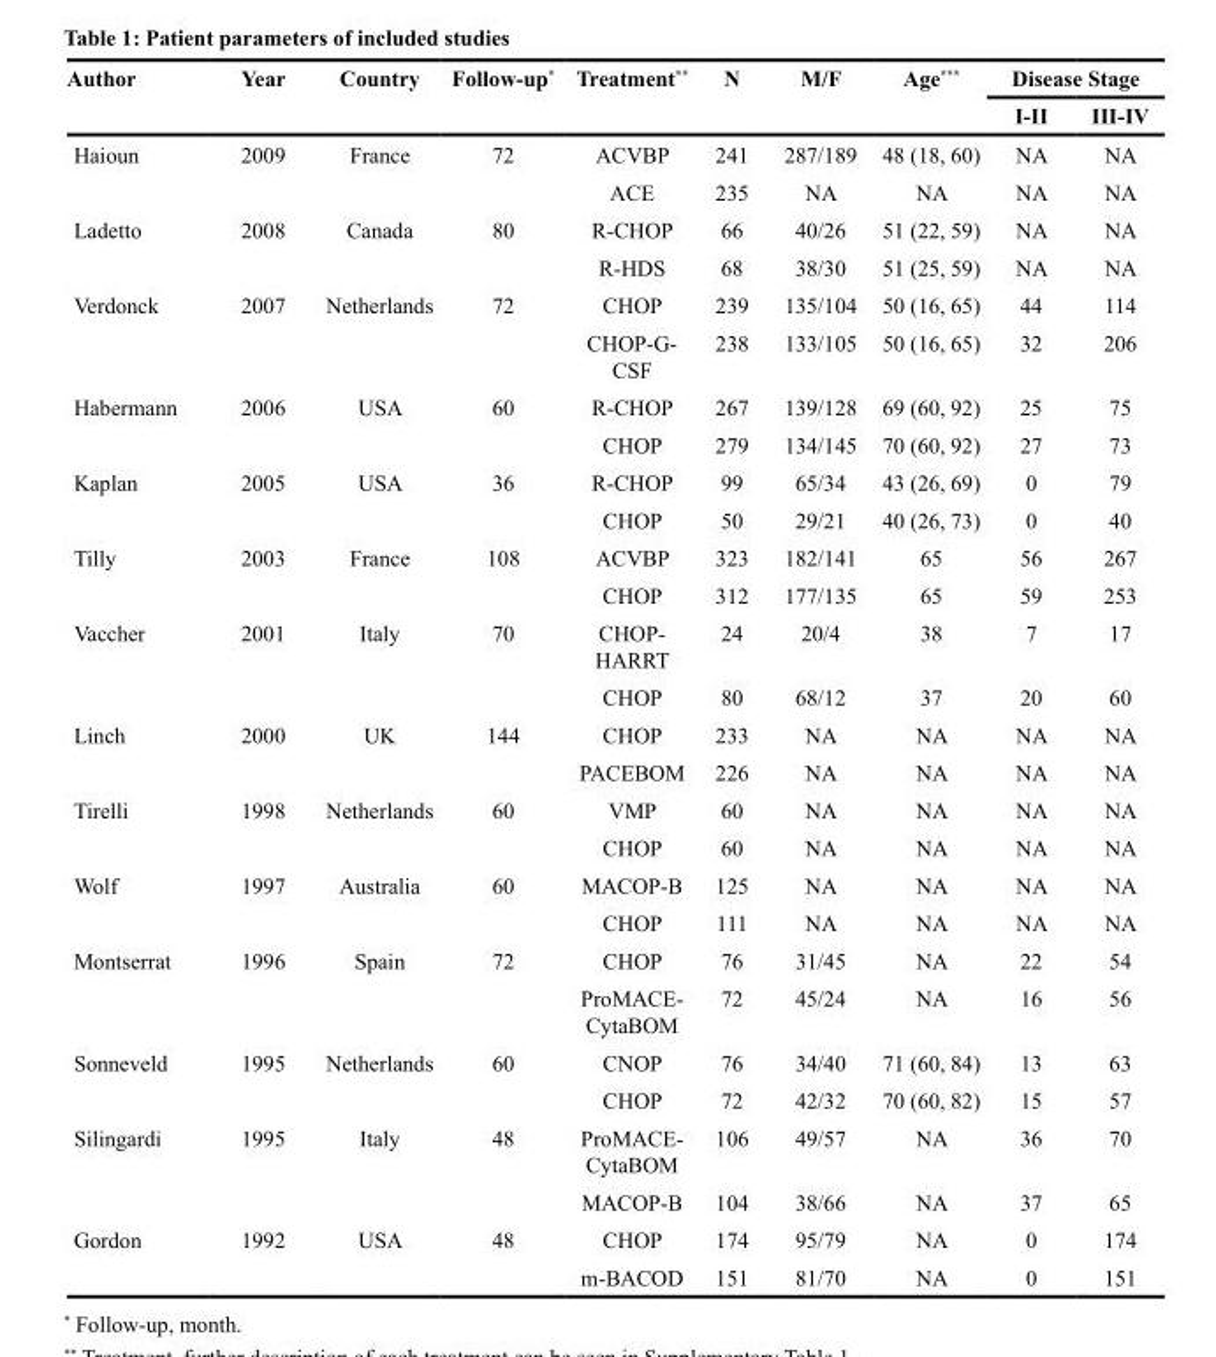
<table><thead><tr><td rowspan="2">Author</td><td rowspan="2">Year</td><td rowspan="2">Country</td><td rowspan="2">Follow-up*</td><td rowspan="2">Treatment**</td><td rowspan="2">N</td><td rowspan="2">M/F</td><td rowspan="2">Age***</td><td colspan="2">Disease Stage</td></tr><tr><td>I-II</td><td>III-IV</td></tr></thead><tbody><tr><td rowspan="2">Haioun</td><td>2009</td><td>France</td><td>72</td><td>ACVBP</td><td>241</td><td>287/189</td><td>48 (18, 60)</td><td>NA</td><td>NA</td></tr><tr><td></td><td></td><td></td><td>ACE</td><td>235</td><td>NA</td><td>NA</td><td>NA</td><td>NA</td></tr><tr><td rowspan="2">Ladetto</td><td>2008</td><td>Canada</td><td>80</td><td>R-CHOP</td><td>66</td><td>40/26</td><td>51 (22, 59)</td><td>NA</td><td>NA</td></tr><tr><td></td><td></td><td></td><td>R-HDS</td><td>68</td><td>38/30</td><td>51 (25, 59)</td><td>NA</td><td>NA</td></tr><tr><td rowspan="2">Verdonck</td><td>2007</td><td>Netherlands</td><td>72</td><td>CHOP</td><td>239</td><td>135/104</td><td>50 (16, 65)</td><td>44</td><td>114</td></tr><tr><td></td><td></td><td></td><td>CHOP-G- CSF</td><td>238</td><td>133/105</td><td>50 (16, 65)</td><td>32</td><td>206</td></tr><tr><td rowspan="2">Habermann</td><td>2006</td><td>USA</td><td>60</td><td>R-CHOP</td><td>267</td><td>139/128</td><td>69 (60, 92)</td><td>25</td><td>75</td></tr><tr><td></td><td></td><td></td><td>CHOP</td><td>279</td><td>134/145</td><td>70 (60, 92)</td><td>27</td><td>73</td></tr><tr><td rowspan="2">Kaplan</td><td>2005</td><td>USA</td><td>36</td><td>R-CHOP</td><td>99</td><td>65/34</td><td>43 (26, 69)</td><td>0</td><td>79</td></tr><tr><td></td><td></td><td></td><td>CHOP</td><td>50</td><td>29/21</td><td>40 (26, 73)</td><td>0</td><td>40</td></tr><tr><td rowspan="2">Tilly</td><td>2003</td><td>France</td><td>108</td><td>ACVBP</td><td>323</td><td>182/141</td><td>65</td><td>56</td><td>267</td></tr><tr><td></td><td></td><td></td><td>CHOP</td><td>312</td><td>177/135</td><td>65</td><td>59</td><td>253</td></tr><tr><td rowspan="2">Vaccher</td><td>2001</td><td>Italy</td><td>70</td><td>CHOP- HARRT</td><td>24</td><td>20/4</td><td>38</td><td>7</td><td>17</td></tr><tr><td></td><td></td><td></td><td>CHOP</td><td>80</td><td>68/12</td><td>37</td><td>20</td><td>60</td></tr><tr><td rowspan="2">Linch</td><td>2000</td><td>UK</td><td>144</td><td>CHOP</td><td>233</td><td>NA</td><td>NA</td><td>NA</td><td>NA</td></tr><tr><td></td><td></td><td></td><td>PACEBOM</td><td>226</td><td>NA</td><td>NA</td><td>NA</td><td>NA</td></tr><tr><td rowspan="2">Tirelli</td><td>1998</td><td>Netherlands</td><td>60</td><td>VMP</td><td>60</td><td>NA</td><td>NA</td><td>NA</td><td>NA</td></tr><tr><td></td><td></td><td></td><td>CHOP</td><td>60</td><td>NA</td><td>NA</td><td>NA</td><td>NA</td></tr><tr><td rowspan="2">Wolf</td><td>1997</td><td>Australia</td><td>60</td><td>MACOP-B</td><td>125</td><td>NA</td><td>NA</td><td>NA</td><td>NA</td></tr><tr><td></td><td></td><td></td><td>CHOP</td><td>111</td><td>NA</td><td>NA</td><td>NA</td><td>NA</td></tr><tr><td rowspan="2">Montserrat</td><td>1996</td><td>Spain</td><td>72</td><td>CHOP</td><td>76</td><td>31/45</td><td>NA</td><td>22</td><td>54</td></tr><tr><td></td><td></td><td></td><td>ProMACE- CytaBOM</td><td>72</td><td>45/24</td><td>NA</td><td>16</td><td>56</td></tr><tr><td rowspan="2">Sonneveld</td><td>1995</td><td>Netherlands</td><td>60</td><td>CNOP</td><td>76</td><td>34/40</td><td>71 (60, 84)</td><td>13</td><td>63</td></tr><tr><td></td><td></td><td></td><td>CHOP</td><td>72</td><td>42/32</td><td>70 (60, 82)</td><td>15</td><td>57</td></tr><tr><td rowspan="2">Silingardi</td><td>1995</td><td>Italy</td><td>48</td><td>ProMACE- CytaBOM</td><td>106</td><td>49/57</td><td>NA</td><td>36</td><td>70</td></tr><tr><td></td><td></td><td></td><td>MACOP-B</td><td>104</td><td>38/66</td><td>NA</td><td>37</td><td>65</td></tr><tr><td rowspan="2">Gordon</td><td>1992</td><td>USA</td><td>48</td><td>CHOP</td><td>174</td><td>95/79</td><td>NA</td><td>0</td><td>174</td></tr><tr><td></td><td></td><td></td><td>m-BACOD</td><td>151</td><td>81/70</td><td>NA</td><td>0</td><td>151</td></tr></tbody></table>